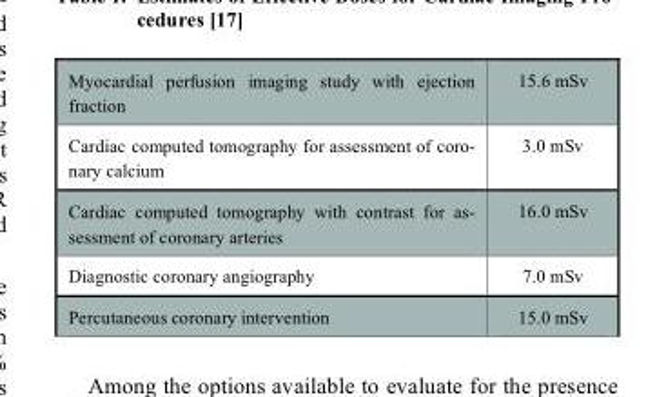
<table><tbody><tr><td>Myocardial perfusion imaging study with ejection fraction</td><td>15.6 mSv</td></tr><tr><td>Cardiac computed tomography for assessment of coro- nary calcium</td><td>3.0 mSv</td></tr><tr><td>Cardiac computed tomography with contrast for as- sessment of coronary arteries</td><td>16.0 mSv</td></tr><tr><td>Diagnostic coronary angiography</td><td>7.0 mSv</td></tr><tr><td>Percutaneous coronary intervention</td><td>15.0 mSv</td></tr></tbody></table>